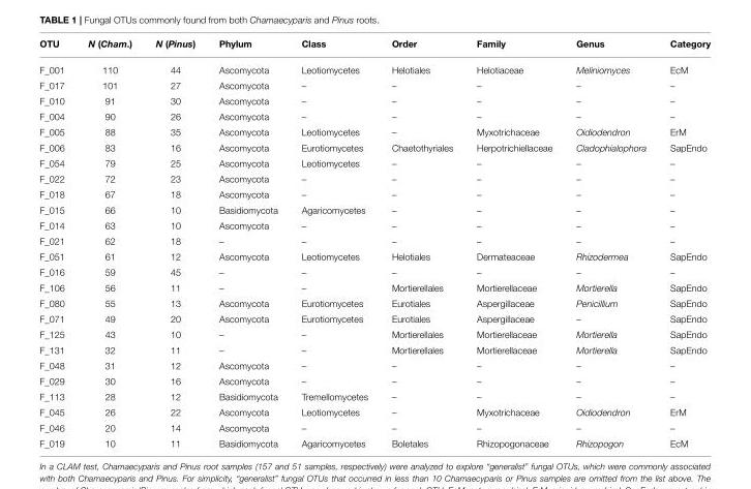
<table><thead><tr><td>OTU</td><td>N (Cham.)</td><td>N (Pinus)</td><td>Phylum</td><td>Class</td><td>Order</td><td>Family</td><td>Genus</td><td>Category</td></tr></thead><tbody><tr><td>F_001</td><td>110</td><td>44</td><td>Ascomycota</td><td>Leotiomycetes</td><td>Helotiales</td><td>Helotiaceae</td><td>Meliniomyces</td><td>EcM</td></tr><tr><td>F_017</td><td>101</td><td>27</td><td>Ascomycota</td><td>–</td><td>–</td><td>–</td><td>–</td><td>–</td></tr><tr><td>F_010</td><td>91</td><td>30</td><td>Ascomycota</td><td>–</td><td>–</td><td>–</td><td>–</td><td>–</td></tr><tr><td>F_004</td><td>90</td><td>26</td><td>Ascomycota</td><td>–</td><td>–</td><td>–</td><td>–</td><td>–</td></tr><tr><td>F_005</td><td>88</td><td>35</td><td>Ascomycota</td><td>Leotiomycetes</td><td>–</td><td>Myxotrichaceae</td><td>Oidiodendron</td><td>ErM</td></tr><tr><td>F_006</td><td>83</td><td>16</td><td>Ascomycota</td><td>Eurotiomycetes</td><td>Chaetothyriales</td><td>Herpotrichiellaceae</td><td>Cladophialophora</td><td>SapEndo</td></tr><tr><td>F_054</td><td>79</td><td>25</td><td>Ascomycota</td><td>Leotiomycetes</td><td>–</td><td>–</td><td>–</td><td>–</td></tr><tr><td>F_022</td><td>72</td><td>23</td><td>Ascomycota</td><td>–</td><td>–</td><td>–</td><td>–</td><td>–</td></tr><tr><td>F_018</td><td>67</td><td>18</td><td>Ascomycota</td><td>–</td><td>–</td><td>–</td><td>–</td><td>–</td></tr><tr><td>F_015</td><td>66</td><td>10</td><td>Basidiomycota</td><td>Agaricomycetes</td><td>–</td><td>–</td><td>–</td><td>–</td></tr><tr><td>F_014</td><td>63</td><td>10</td><td>Ascomycota</td><td>–</td><td>–</td><td>–</td><td>–</td><td>–</td></tr><tr><td>F_021</td><td>62</td><td>18</td><td>–</td><td>–</td><td>–</td><td>–</td><td>–</td><td>–</td></tr><tr><td>F_051</td><td>61</td><td>12</td><td>Ascomycota</td><td>Leotiomycetes</td><td>Helotiales</td><td>Dermateaceae</td><td>Rhizodermea</td><td>SapEndo</td></tr><tr><td>F_016</td><td>59</td><td>45</td><td>–</td><td>–</td><td>–</td><td>–</td><td>–</td><td>–</td></tr><tr><td>F_106</td><td>56</td><td>11</td><td>–</td><td>–</td><td>Mortierellales</td><td>Mortierellaceae</td><td>Mortierella</td><td>SapEndo</td></tr><tr><td>F_080</td><td>55</td><td>13</td><td>Ascomycota</td><td>Eurotiomycetes</td><td>Eurotiales</td><td>Aspergillaceae</td><td>Penicillium</td><td>SapEndo</td></tr><tr><td>F_071</td><td>49</td><td>20</td><td>Ascomycota</td><td>Eurotiomycetes</td><td>Eurotiales</td><td>Aspergillaceae</td><td>–</td><td>SapEndo</td></tr><tr><td>F_125</td><td>43</td><td>10</td><td>–</td><td>–</td><td>Mortierellales</td><td>Mortierellaceae</td><td>Mortierella</td><td>SapEndo</td></tr><tr><td>F_131</td><td>32</td><td>11</td><td>–</td><td>–</td><td>Mortierellales</td><td>Mortierellaceae</td><td>Mortierella</td><td>SapEndo</td></tr><tr><td>F_048</td><td>31</td><td>12</td><td>Ascomycota</td><td>–</td><td>–</td><td>–</td><td>–</td><td>–</td></tr><tr><td>F_029</td><td>30</td><td>16</td><td>Ascomycota</td><td>–</td><td>–</td><td>–</td><td>–</td><td>–</td></tr><tr><td>F_113</td><td>28</td><td>12</td><td>Basidiomycota</td><td>Tremellomycetes</td><td>–</td><td>–</td><td>–</td><td>–</td></tr><tr><td>F_045</td><td>26</td><td>22</td><td>Ascomycota</td><td>Leotiomycetes</td><td>–</td><td>Myxotrichaceae</td><td>Oidiodendron</td><td>ErM</td></tr><tr><td>F_046</td><td>20</td><td>14</td><td>Ascomycota</td><td>–</td><td>–</td><td>–</td><td>–</td><td>–</td></tr><tr><td>F_019</td><td>10</td><td>11</td><td>Basidiomycota</td><td>Agaricomycetes</td><td>Boletales</td><td>Rhizopogonaceae</td><td>Rhizopogon</td><td>EcM</td></tr></tbody></table>